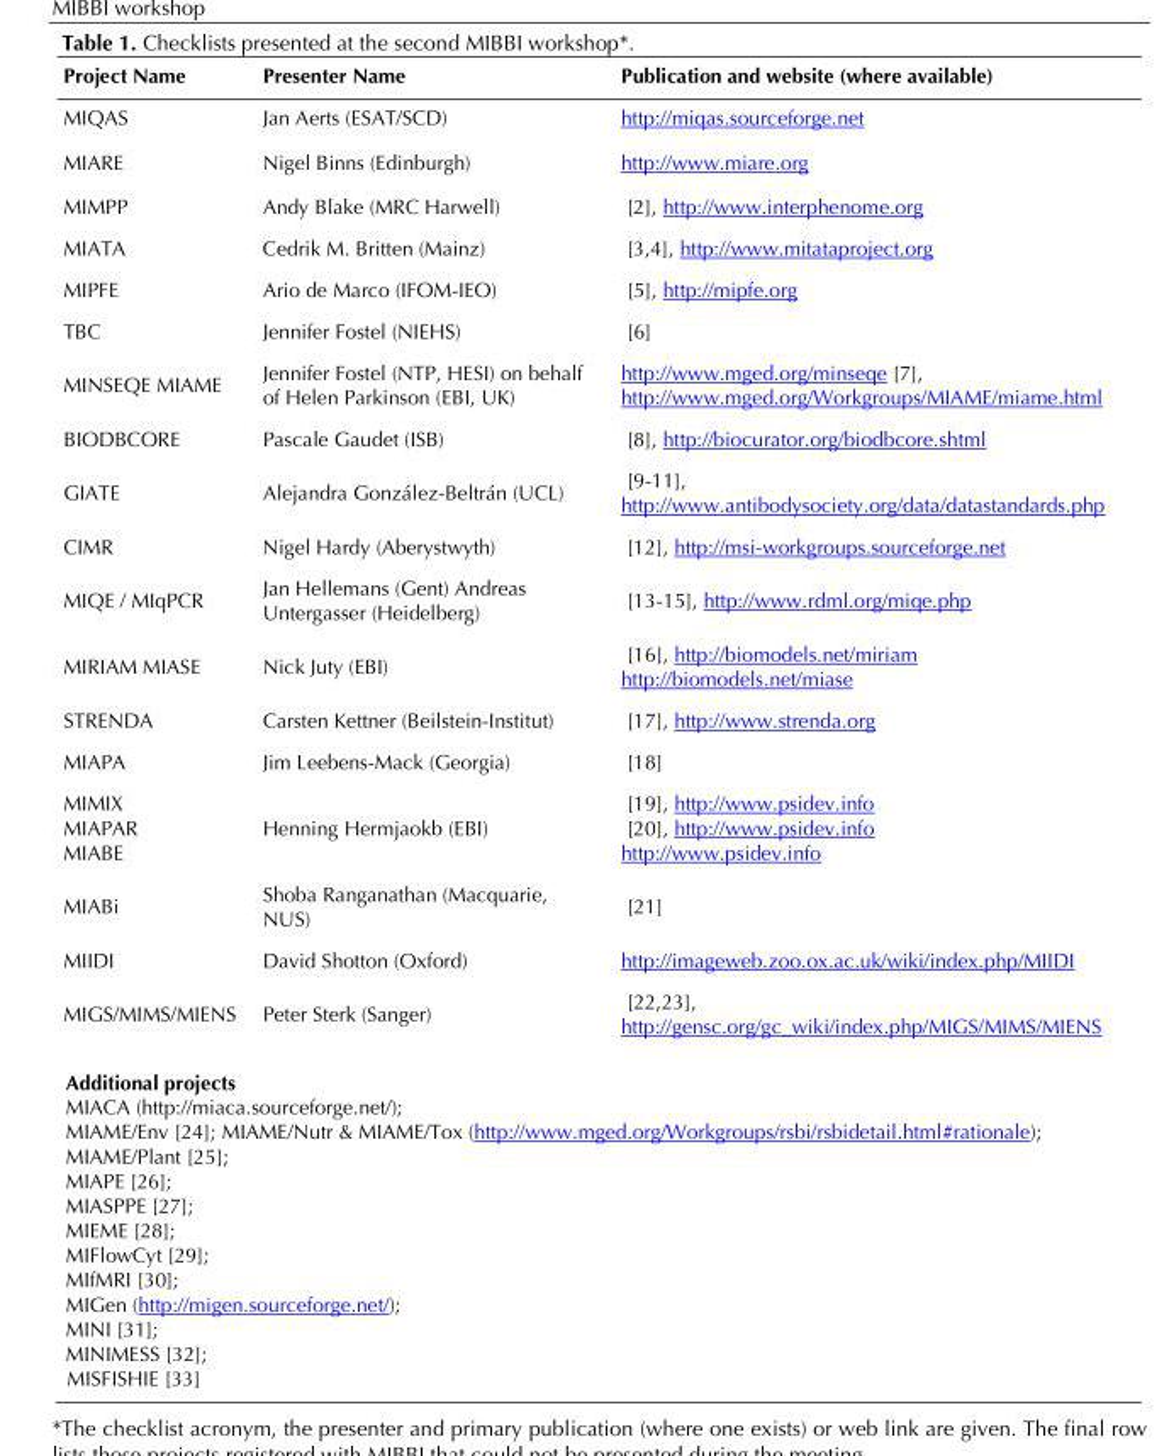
<table><thead><tr><td>Project Name</td><td>Presenter Name</td><td>Publication and website (where available)</td></tr></thead><tbody><tr><td>MIQAS</td><td>Jan Aerts (ESAT/SCD)</td><td>http://miqas.sourceforge.net</td></tr><tr><td>MIARE</td><td>Nigel Binns (Edinburgh)</td><td>http://www.miare.org</td></tr><tr><td>MIMPP</td><td>Andy Blake (MRC Harwell)</td><td>[2], http://www.interphenome.org</td></tr><tr><td>MIATA</td><td>Cedrik M. Britten (Mainz)</td><td>[3,4], http://www.mitataproject.org</td></tr><tr><td>MIPFE</td><td>Ario de Marco (IFOM-IEO)</td><td>[5], http://mipfe.org</td></tr><tr><td>TBC</td><td>Jennifer Fostel (NIEHS)</td><td>[6]</td></tr><tr><td>MINSEQE MIAME</td><td>Jennifer Fostel (NTP, HESI) on behalf of Helen Parkinson (EBI, UK)</td><td>http://www.mged.org/minseqe [7], http://www.mged.org/Workgroups/MIAME/miame.html</td></tr><tr><td>BIODBCORE</td><td>Pascale Gaudet (ISB)</td><td>[8], http://biocurator.org/biodbcore.shtml</td></tr><tr><td>GIATE</td><td>Alejandra González-Beltrán (UCL)</td><td>[9-11], http://www.antibodysociety.org/data/datastandards.php</td></tr><tr><td>CIMR</td><td>Nigel Hardy (Aberystwyth)</td><td>[12], http://msi-workgroups.sourceforge.net</td></tr><tr><td>MIQE / MIqPCR</td><td>Jan Hellemans (Gent) Andreas Untergasser (Heidelberg)</td><td>[13-15], http://www.rdml.org/miqe.php</td></tr><tr><td>MIRIAM MIASE</td><td>Nick Juty (EBI)</td><td>[16], http://biomodels.net/miriam http://biomodels.net/miase</td></tr><tr><td>STRENDA</td><td>Carsten Kettner (Beilstein-Institut)</td><td>[17], http://www.strenda.org</td></tr><tr><td>MIAPA</td><td>Jim Leebens-Mack (Georgia)</td><td>[18]</td></tr><tr><td>MIMIX MIAPAR MIABE</td><td>Henning Hermjaokb (EBI)</td><td>[19], http://www.psidev.info [20], http://www.psidev.info http://www.psidev.info</td></tr><tr><td>MIABi</td><td>Shoba Ranganathan (Macquarie, NUS)</td><td>[21]</td></tr><tr><td>MIIDI</td><td>David Shotton (Oxford)</td><td>http://imageweb.zoo.ox.ac.uk/wiki/index.php/MIIDI</td></tr><tr><td>MIGS/MIMS/MIENS</td><td>Peter Sterk (Sanger)</td><td>[22,23], http://gensc.org/gc_wiki/index.php/MIGS/MIMS/MIENS</td></tr><tr><td colspan="3">Additional projects MIACA (http://miaca.sourceforge.net/); MIAME/Env [24]; MIAME/Nutr &amp; MIAME/Tox (http://www.mged.org/Workgroups/rsbi/rsbidetail.html#rationale); MIAME/Plant [25]; MIAPE [26]; MIASPPE [27]; MIEME [28]; MIFlowCyt [29]; MIfMRI [30]; MIGen (http://migen.sourceforge.net/); MINI [31]; MINIMESS [32]; MISFISHIE [33]</td></tr></tbody></table>